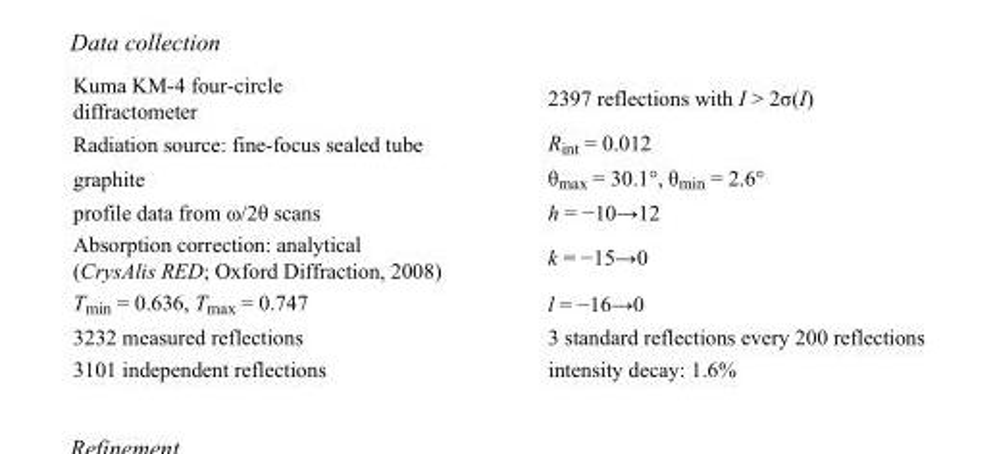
<table><tbody><tr><td>Kuma KM-4 four-circle diffractometer</td><td>2397 reflections with I &gt; 2σ(I)</td></tr><tr><td>Radiation source: fine-focus sealed tube</td><td>R<sub>int</sub> = 0.012</td></tr><tr><td>graphite</td><td>θ<sub>max</sub> = 30.1°, θ<sub>min</sub> = 2.6°</td></tr><tr><td>profile data from ω/2θ scans</td><td>h = −10→12</td></tr><tr><td>Absorption correction: analytical (CrysAlis RED; Oxford Diffraction, 2008)</td><td>k = −15→0</td></tr><tr><td>T<sub>min</sub> = 0.636, T<sub>max</sub> = 0.747</td><td>l = −16→0</td></tr><tr><td>3232 measured reflections</td><td>3 standard reflections every 200 reflections</td></tr><tr><td>3101 independent reflections</td><td>intensity decay: 1.6%</td></tr></tbody></table>